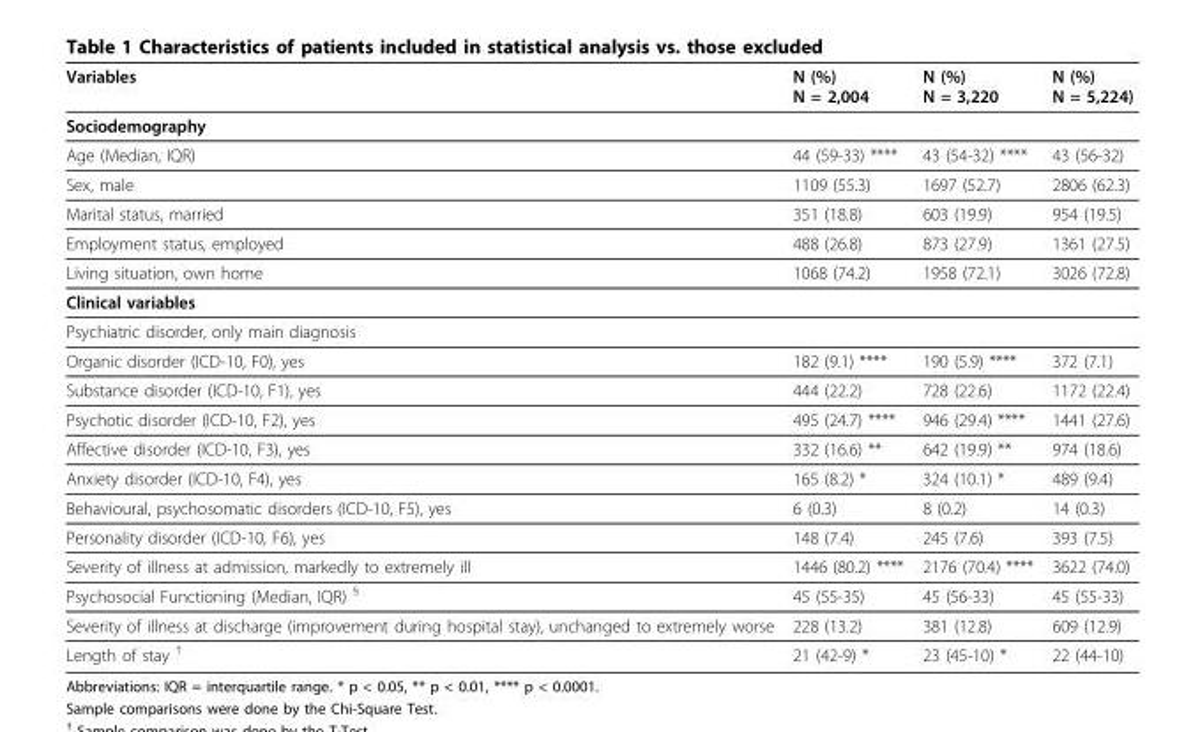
<table><thead><tr><td>Variables</td><td>N (%) N = 2,004</td><td>N (%) N = 3,220</td><td>N (%) N = 5,224)</td></tr></thead><tbody><tr><td colspan="4">Sociodemography</td></tr><tr><td>Age (Median, IQR)</td><td>44 (59-33) ****</td><td>43 (54-32) ****</td><td>43 (56-32)</td></tr><tr><td>Sex, male</td><td>1109 (55.3)</td><td>1697 (52.7)</td><td>2806 (62.3)</td></tr><tr><td>Marital status, married</td><td>351 (18.8)</td><td>603 (19.9)</td><td>954 (19.5)</td></tr><tr><td>Employment status, employed</td><td>488 (26.8)</td><td>873 (27.9)</td><td>1361 (27.5)</td></tr><tr><td>Living situation, own home</td><td>1068 (74.2)</td><td>1958 (72.1)</td><td>3026 (72.8)</td></tr><tr><td colspan="4">Clinical variables</td></tr><tr><td colspan="4">Psychiatric disorder, only main diagnosis</td></tr><tr><td>Organic disorder (ICD-10, F0), yes</td><td>182 (9.1) ****</td><td>190 (5.9) ****</td><td>372 (7.1)</td></tr><tr><td>Substance disorder (ICD-10, F1), yes</td><td>444 (22.2)</td><td>728 (22.6)</td><td>1172 (22.4)</td></tr><tr><td>Psychotic disorder (ICD-10, F2), yes</td><td>495 (24.7) ****</td><td>946 (29.4) ****</td><td>1441 (27.6)</td></tr><tr><td>Affective disorder (ICD-10, F3), yes</td><td>332 (16.6) **</td><td>642 (19.9) **</td><td>974 (18.6)</td></tr><tr><td>Anxiety disorder (ICD-10, F4), yes</td><td>165 (8.2) *</td><td>324 (10.1) *</td><td>489 (9.4)</td></tr><tr><td>Behavioural, psychosomatic disorders (ICD-10, F5), yes</td><td>6 (0.3)</td><td>8 (0.2)</td><td>14 (0.3)</td></tr><tr><td>Personality disorder (ICD-10, F6), yes</td><td>148 (7.4)</td><td>245 (7.6)</td><td>393 (7.5)</td></tr><tr><td>Severity of illness at admission, markedly to extremely ill</td><td>1446 (80.2) ****</td><td>2176 (70.4) ****</td><td>3622 (74.0)</td></tr><tr><td>Psychosocial Functioning (Median, IQR) <sup>§</sup></td><td>45 (55-35)</td><td>45 (56-33)</td><td>45 (55-33)</td></tr><tr><td>Severity of illness at discharge (improvement during hospital stay), unchanged to extremely worse</td><td>228 (13.2)</td><td>381 (12.8)</td><td>609 (12.9)</td></tr><tr><td>Length of stay <sup>†</sup></td><td>21 (42-9) *</td><td>23 (45-10) *</td><td>22 (44-10)</td></tr></tbody></table>